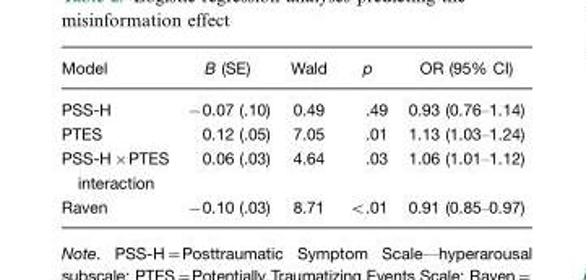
<table><thead><tr><td>Model</td><td>B (SE)</td><td>Wald</td><td>p</td><td>OR (95% CI)</td></tr></thead><tbody><tr><td>PSS-H</td><td>−0.07 (.10)</td><td>0.49</td><td>.49</td><td>0.93 (0.76–1.14)</td></tr><tr><td>PTES</td><td>0.12 (.05)</td><td>7.05</td><td>.01</td><td>1.13 (1.03–1.24)</td></tr><tr><td>PSS-H×PTES interaction</td><td>0.06 (.03)</td><td>4.64</td><td>.03</td><td>1.06 (1.01–1.12)</td></tr><tr><td>Raven</td><td>−0.10 (.03)</td><td>8.71</td><td>&lt;.01</td><td>0.91 (0.85–0.97)</td></tr></tbody></table>